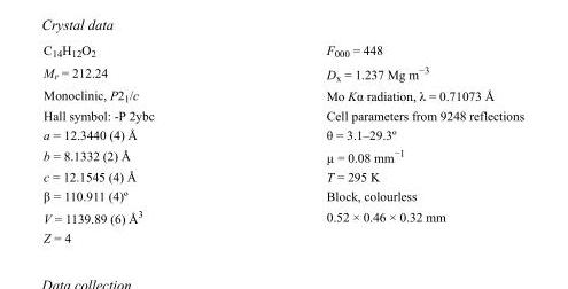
<table><tbody><tr><td>C<sub>14</sub>H<sub>12</sub>O<sub>2</sub></td><td>F000 = 448</td></tr><tr><td>M<sub>r</sub> = 212.24</td><td>D<sub>x</sub> = 1.237 Mg m<sup>−3</sup></td></tr><tr><td>Monoclinic, P2<sub>1</sub>/c</td><td>Mo Kα radiation, λ = 0.71073 Å</td></tr><tr><td>Hall symbol: -P 2ybc</td><td>Cell parameters from 9248 reflections</td></tr><tr><td>a = 12.3440 (4) Å</td><td>θ = 3.1–29.3º</td></tr><tr><td>b = 8.1332 (2) Å</td><td>µ = 0.08 mm<sup>−1</sup></td></tr><tr><td>c = 12.1545 (4) Å</td><td>T = 295 K</td></tr><tr><td>β = 110.911 (4)º</td><td>Block, colourless</td></tr><tr><td>V = 1139.89 (6) Å<sup>3</sup></td><td>0.52 × 0.46 × 0.32 mm</td></tr><tr><td>Z = 4</td><td></td></tr></tbody></table>